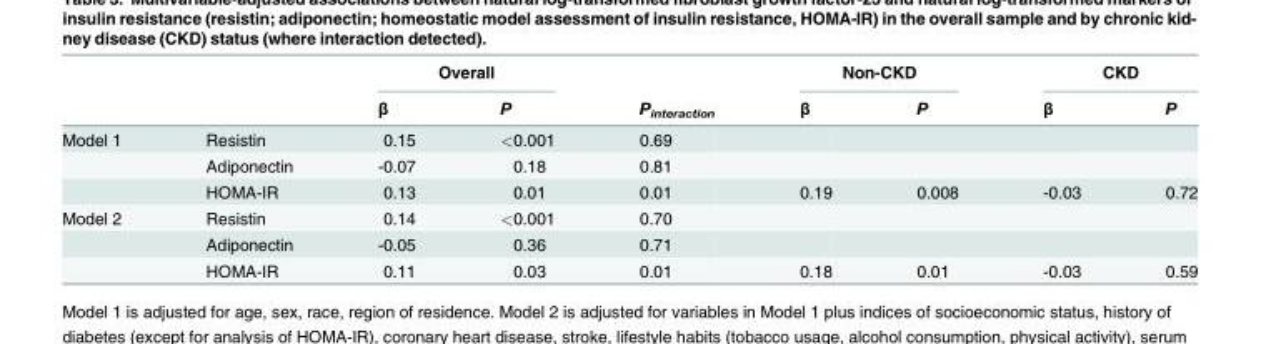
<table><thead><tr><td rowspan="2"></td><td rowspan="2"></td><td colspan="2">Overall</td><td rowspan="2">P<sub>interaction</sub></td><td colspan="2">Non-CKD</td><td colspan="2">CKD</td></tr><tr><td>β</td><td>P</td><td>β</td><td>P</td><td>β</td><td>P</td></tr></thead><tbody><tr><td rowspan="3">Model 1</td><td>Resistin</td><td>0.15</td><td>&lt;0.001</td><td>0.69</td><td></td><td></td><td></td><td></td></tr><tr><td>Adiponectin</td><td>-0.07</td><td>0.18</td><td>0.81</td><td></td><td></td><td></td><td></td></tr><tr><td>HOMA-IR</td><td>0.13</td><td>0.01</td><td>0.01</td><td>0.19</td><td>0.008</td><td>-0.03</td><td>0.72</td></tr><tr><td rowspan="3">Model 2</td><td>Resistin</td><td>0.14</td><td>&lt;0.001</td><td>0.70</td><td></td><td></td><td></td><td></td></tr><tr><td>Adiponectin</td><td>-0.05</td><td>0.36</td><td>0.71</td><td></td><td></td><td></td><td></td></tr><tr><td>HOMA-IR</td><td>0.11</td><td>0.03</td><td>0.01</td><td>0.18</td><td>0.01</td><td>-0.03</td><td>0.59</td></tr></tbody></table>